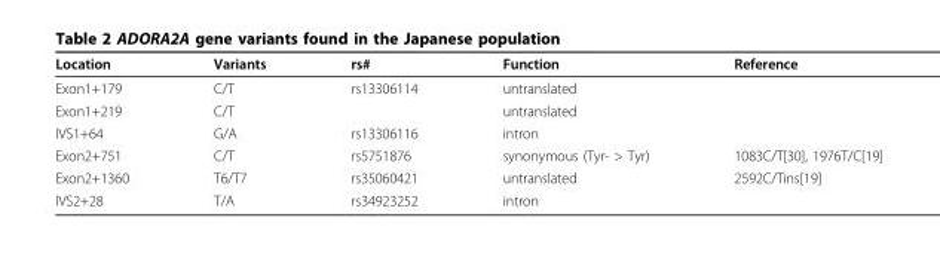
<table><thead><tr><td>Location</td><td>Variants</td><td>rs#</td><td>Function</td><td>Reference</td></tr></thead><tbody><tr><td>Exon1+179</td><td>C/T</td><td>rs13306114</td><td>untranslated</td><td></td></tr><tr><td>Exon1+219</td><td>C/T</td><td></td><td>untranslated</td><td></td></tr><tr><td>IVS1+64</td><td>G/A</td><td>rs13306116</td><td>intron</td><td></td></tr><tr><td>Exon2+751</td><td>C/T</td><td>rs5751876</td><td>synonymous (Tyr- &gt; Tyr)</td><td>1083C/T[30], 1976T/C[19]</td></tr><tr><td>Exon2+1360</td><td>T6/T7</td><td>rs35060421</td><td>untranslated</td><td>2592C/Tins[19]</td></tr><tr><td>IVS2+28</td><td>T/A</td><td>rs34923252</td><td>intron</td><td></td></tr></tbody></table>